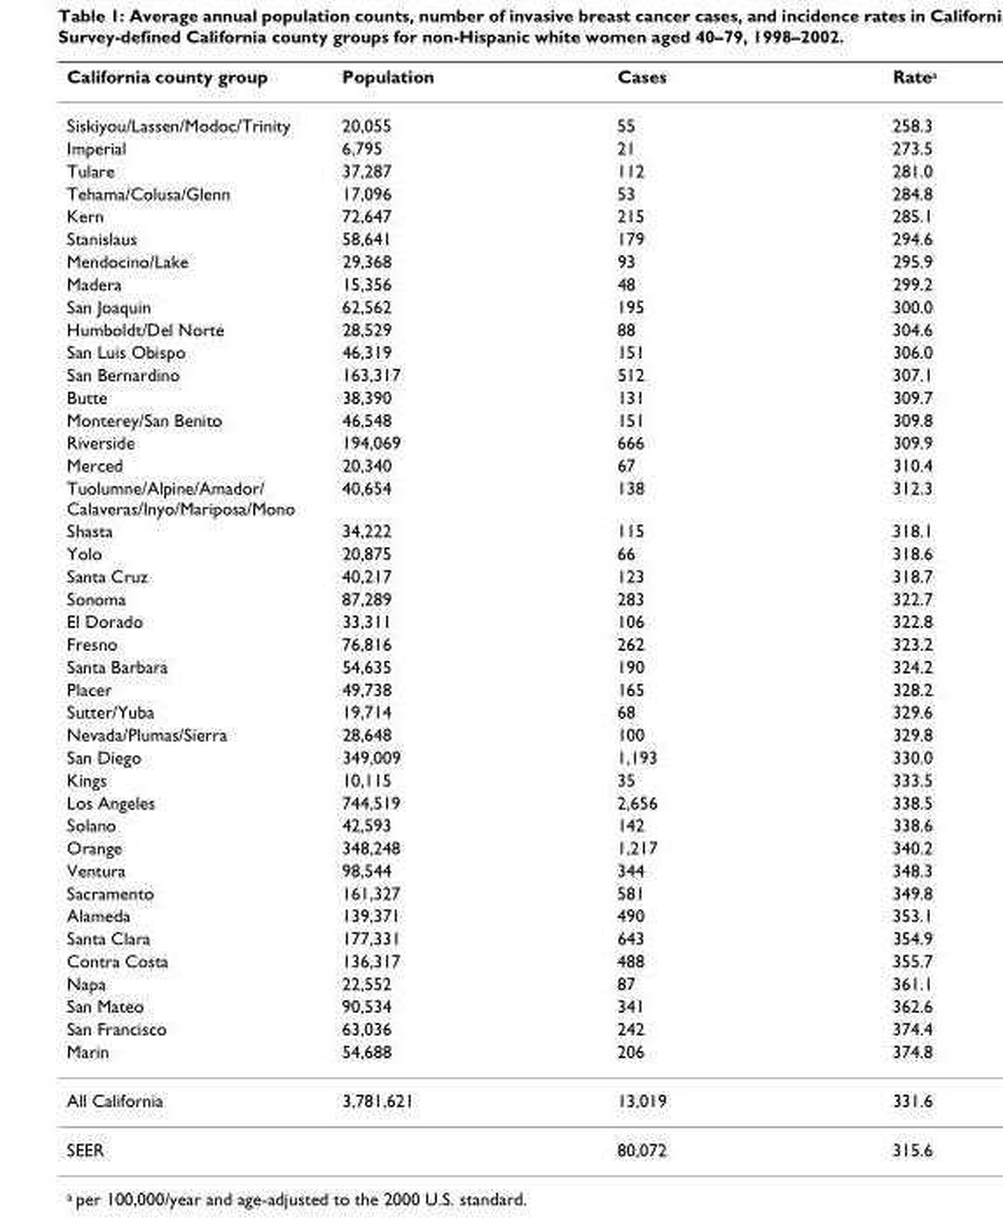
<table><thead><tr><td>California county group</td><td>Population</td><td>Cases</td><td>Ratea</td></tr></thead><tbody><tr><td>Siskiyou/Lassen/Modoc/Trinity</td><td>20,055</td><td>55</td><td>258.3</td></tr><tr><td>Imperial</td><td>6,795</td><td>21</td><td>273.5</td></tr><tr><td>Tulare</td><td>37,287</td><td>112</td><td>281.0</td></tr><tr><td>Tehama/Colusa/Glenn</td><td>17,096</td><td>53</td><td>284.8</td></tr><tr><td>Kern</td><td>72,647</td><td>215</td><td>285.1</td></tr><tr><td>Stanislaus</td><td>58,641</td><td>179</td><td>294.6</td></tr><tr><td>Mendocino/Lake</td><td>29,368</td><td>93</td><td>295.9</td></tr><tr><td>Madera</td><td>15,356</td><td>48</td><td>299.2</td></tr><tr><td>San Joaquin</td><td>62,562</td><td>195</td><td>300.0</td></tr><tr><td>Humboldt/Del Norte</td><td>28,529</td><td>88</td><td>304.6</td></tr><tr><td>San Luis Obispo</td><td>46,319</td><td>151</td><td>306.0</td></tr><tr><td>San Bernardino</td><td>163,317</td><td>512</td><td>307.1</td></tr><tr><td>Butte</td><td>38,390</td><td>131</td><td>309.7</td></tr><tr><td>Monterey/San Benito</td><td>46,548</td><td>151</td><td>309.8</td></tr><tr><td>Riverside</td><td>194,069</td><td>666</td><td>309.9</td></tr><tr><td>Merced</td><td>20,340</td><td>67</td><td>310.4</td></tr><tr><td>Tuolumne/Alpine/Amador/ Calaveras/Inyo/Mariposa/Mono</td><td>40,654</td><td>138</td><td>312.3</td></tr><tr><td>Shasta</td><td>34,222</td><td>115</td><td>318.1</td></tr><tr><td>Yolo</td><td>20,875</td><td>66</td><td>318.6</td></tr><tr><td>Santa Cruz</td><td>40,217</td><td>123</td><td>318.7</td></tr><tr><td>Sonoma</td><td>87,289</td><td>283</td><td>322.7</td></tr><tr><td>El Dorado</td><td>33,311</td><td>106</td><td>322.8</td></tr><tr><td>Fresno</td><td>76,816</td><td>262</td><td>323.2</td></tr><tr><td>Santa Barbara</td><td>54,635</td><td>190</td><td>324.2</td></tr><tr><td>Placer</td><td>49,738</td><td>165</td><td>328.2</td></tr><tr><td>Sutter/Yuba</td><td>19,714</td><td>68</td><td>329.6</td></tr><tr><td>Nevada/Plumas/Sierra</td><td>28,648</td><td>100</td><td>329.8</td></tr><tr><td>San Diego</td><td>349,009</td><td>1,193</td><td>330.0</td></tr><tr><td>Kings</td><td>10,115</td><td>35</td><td>333.5</td></tr><tr><td>Los Angeles</td><td>744,519</td><td>2,656</td><td>338.5</td></tr><tr><td>Solano</td><td>42,593</td><td>142</td><td>338.6</td></tr><tr><td>Orange</td><td>348,248</td><td>1,217</td><td>340.2</td></tr><tr><td>Ventura</td><td>98,544</td><td>344</td><td>348.3</td></tr><tr><td>Sacramento</td><td>161,327</td><td>581</td><td>349.8</td></tr><tr><td>Alameda</td><td>139,371</td><td>490</td><td>353.1</td></tr><tr><td>Santa Clara</td><td>177,331</td><td>643</td><td>354.9</td></tr><tr><td>Contra Costa</td><td>136,317</td><td>488</td><td>355.7</td></tr><tr><td>Napa</td><td>22,552</td><td>87</td><td>361.1</td></tr><tr><td>San Mateo</td><td>90,534</td><td>341</td><td>362.6</td></tr><tr><td>San Francisco</td><td>63,036</td><td>242</td><td>374.4</td></tr><tr><td>Marin</td><td>54,688</td><td>206</td><td>374.8</td></tr><tr><td>All California</td><td>3,781,621</td><td>13,019</td><td>331.6</td></tr><tr><td>SEER</td><td></td><td>80,072</td><td>315.6</td></tr></tbody></table>